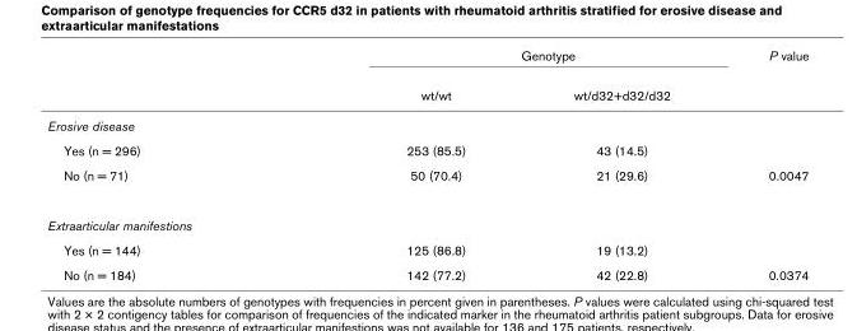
<table><thead><tr><td rowspan="2"></td><td colspan="2">Genotype</td><td rowspan="2">P value</td></tr><tr><td>wt/wt</td><td>wt/d32+d32/d32</td></tr></thead><tbody><tr><td colspan="4">Erosive disease</td></tr><tr><td>Yes (n = 296)</td><td>253 (85.5)</td><td>43 (14.5)</td><td></td></tr><tr><td>No (n = 71)</td><td>50 (70.4)</td><td>21 (29.6)</td><td>0.0047</td></tr><tr><td colspan="4">Extraarticular manifestions</td></tr><tr><td>Yes (n = 144)</td><td>125 (86.8)</td><td>19 (13.2)</td><td></td></tr><tr><td>No (n = 184)</td><td>142 (77.2)</td><td>42 (22.8)</td><td>0.0374</td></tr></tbody></table>